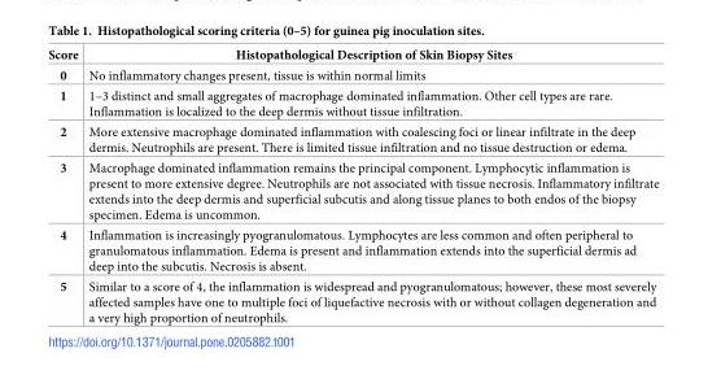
<table><thead><tr><td>Score</td><td>Histopathological Description of Skin Biopsy Sites</td></tr></thead><tbody><tr><td>0</td><td>No inflammatory changes present, tissue is within normal limits</td></tr><tr><td>1</td><td>1–3 distinct and small aggregates of macrophage dominated inflammation. Other cell types are rare. Inflammation is localized to the deep dermis without tissue infiltration.</td></tr><tr><td>2</td><td>More extensive macrophage dominated inflammation with coalescing foci or linear infiltrate in the deep dermis. Neutrophils are present. There is limited tissue infiltration and no tissue destruction or edema.</td></tr><tr><td>3</td><td>Macrophage dominated inflammation remains the principal component. Lymphocytic inflammation is present to more extensive degree. Neutrophils are not associated with tissue necrosis. Inflammatory infiltrate extends into the deep dermis and superficial subcutis and along tissue planes to both endos of the biopsy specimen. Edema is uncommon.</td></tr><tr><td>4</td><td>Inflammation is increasingly pyogranulomatous. Lymphocytes are less common and often peripheral to granulomatous inflammation. Edema is present and inflammation extends into the superficial dermis ad deep into the subcutis. Necrosis is absent.</td></tr><tr><td>5</td><td>Similar to a score of 4, the inflammation is widespread and pyogranulomatous; however, these most severely affected samples have one to multiple foci of liquefactive necrosis with or without collagen degeneration and a very high proportion of neutrophils.</td></tr></tbody></table>